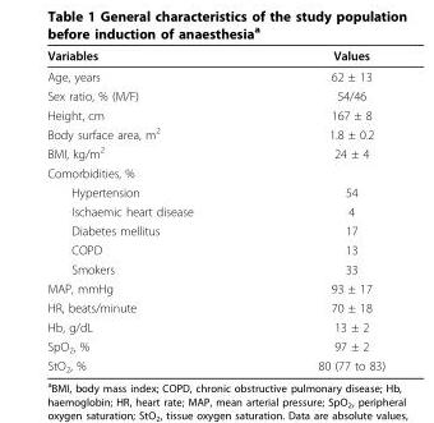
<table><thead><tr><td>Variables</td><td>Values</td></tr></thead><tbody><tr><td>Age, years</td><td>62 ± 13</td></tr><tr><td>Sex ratio, % (M/F)</td><td>54/46</td></tr><tr><td>Height, cm</td><td>167 ± 8</td></tr><tr><td>Body surface area, m<sup>2</sup></td><td>1.8 ± 0.2</td></tr><tr><td>BMI, kg/m<sup>2</sup></td><td>24 ± 4</td></tr><tr><td colspan="2">Comorbidities, %</td></tr><tr><td>Hypertension</td><td>54</td></tr><tr><td>Ischaemic heart disease</td><td>4</td></tr><tr><td>Diabetes mellitus</td><td>17</td></tr><tr><td>COPD</td><td>13</td></tr><tr><td>Smokers</td><td>33</td></tr><tr><td>MAP, mmHg</td><td>93 ± 17</td></tr><tr><td>HR, beats/minute</td><td>70 ± 18</td></tr><tr><td>Hb, g/dL</td><td>13 ± 2</td></tr><tr><td>SpO<sub>2</sub>, %</td><td>97 ± 2</td></tr><tr><td>StO<sub>2</sub>, %</td><td>80 (77 to 83)</td></tr></tbody></table>